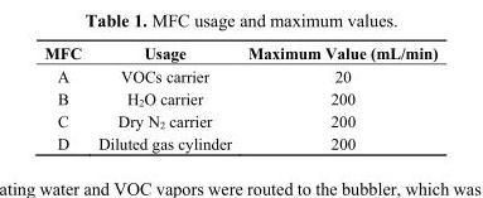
<table><thead><tr><td>MFC</td><td>Usage</td><td>Maximum Value (mL/min)</td></tr></thead><tbody><tr><td>A</td><td>VOCs carrier</td><td>20</td></tr><tr><td>B</td><td>H<sub>2</sub>O carrier</td><td>200</td></tr><tr><td>C</td><td>Dry N<sub>2</sub> carrier</td><td>200</td></tr><tr><td>D</td><td>Diluted gas cylinder</td><td>200</td></tr></tbody></table>